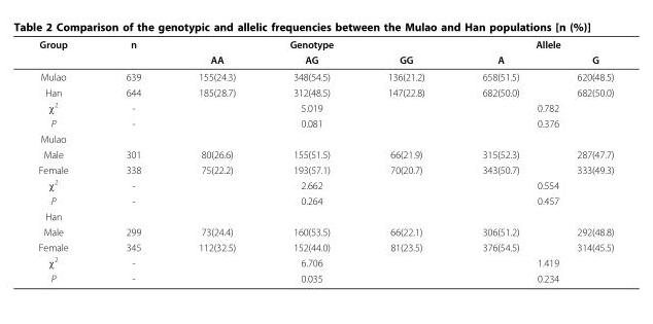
<table><thead><tr><td rowspan="2">Group</td><td rowspan="2">n</td><td colspan="3">Genotype</td><td colspan="2">Allele</td></tr><tr><td>AA</td><td>AG</td><td>GG</td><td>A</td><td>G</td></tr></thead><tbody><tr><td>Mulao</td><td>639</td><td>155(24.3)</td><td>348(54.5)</td><td>136(21.2)</td><td>658(51.5)</td><td>620(48.5)</td></tr><tr><td>Han</td><td>644</td><td>185(28.7)</td><td>312(48.5)</td><td>147(22.8)</td><td>682(50.0)</td><td>682(50.0)</td></tr><tr><td>χ<sup>2</sup></td><td>-</td><td colspan="3">5.019</td><td colspan="2">0.782</td></tr><tr><td>P</td><td>-</td><td colspan="3">0.081</td><td colspan="2">0.376</td></tr><tr><td colspan="7">Mulao</td></tr><tr><td>Male</td><td>301</td><td>80(26.6)</td><td>155(51.5)</td><td>66(21.9)</td><td>315(52.3)</td><td>287(47.7)</td></tr><tr><td>Female</td><td>338</td><td>75(22.2)</td><td>193(57.1)</td><td>70(20.7)</td><td>343(50.7)</td><td>333(49.3)</td></tr><tr><td>χ<sup>2</sup></td><td>-</td><td colspan="3">2.662</td><td colspan="2">0.554</td></tr><tr><td>P</td><td>-</td><td colspan="3">0.264</td><td colspan="2">0.457</td></tr><tr><td colspan="7">Han</td></tr><tr><td>Male</td><td>299</td><td>73(24.4)</td><td>160(53.5)</td><td>66(22.1)</td><td>306(51.2)</td><td>292(48.8)</td></tr><tr><td>Female</td><td>345</td><td>112(32.5)</td><td>152(44.0)</td><td>81(23.5)</td><td>376(54.5)</td><td>314(45.5)</td></tr><tr><td>χ<sup>2</sup></td><td>-</td><td colspan="3">6.706</td><td colspan="2">1.419</td></tr><tr><td>P</td><td>-</td><td colspan="3">0.035</td><td colspan="2">0.234</td></tr></tbody></table>